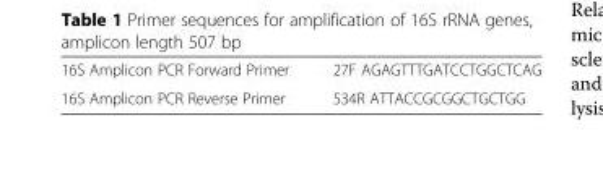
<table><tbody><tr><td>16S Amplicon PCR Forward Primer</td><td>27F AGAGTTTGATCCTGGCTCAG</td></tr><tr><td>16S Amplicon PCR Reverse Primer</td><td>534R ATTACCGCGGCTGCTGG</td></tr></tbody></table>